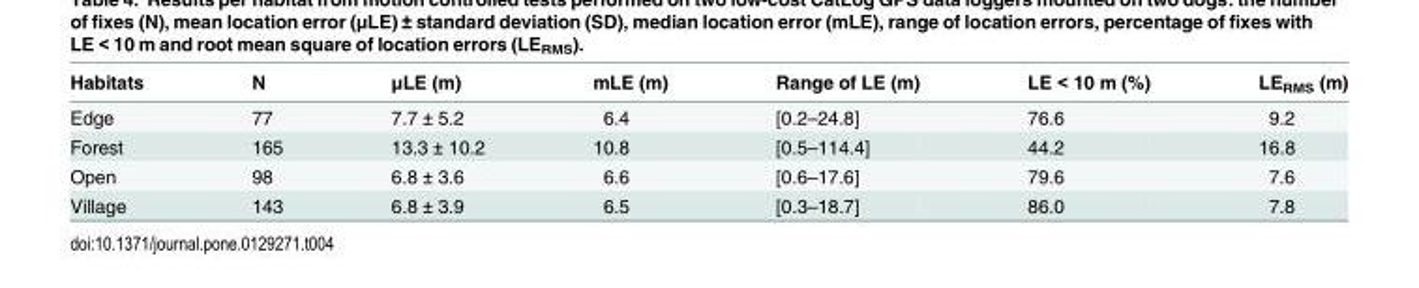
<table><thead><tr><td>Habitats</td><td>N</td><td>μLE (m)</td><td>mLE (m)</td><td>Range of LE (m)</td><td>LE &lt; 10 m (%)</td><td>LE<sub>RMS</sub> (m)</td></tr></thead><tbody><tr><td>Edge</td><td>77</td><td>7.7 ± 5.2</td><td>6.4</td><td>[0.2–24.8]</td><td>76.6</td><td>9.2</td></tr><tr><td>Forest</td><td>165</td><td>13.3 ± 10.2</td><td>10.8</td><td>[0.5–114.4]</td><td>44.2</td><td>16.8</td></tr><tr><td>Open</td><td>98</td><td>6.8 ± 3.6</td><td>6.6</td><td>[0.6–17.6]</td><td>79.6</td><td>7.6</td></tr><tr><td>Village</td><td>143</td><td>6.8 ± 3.9</td><td>6.5</td><td>[0.3–18.7]</td><td>86.0</td><td>7.8</td></tr></tbody></table>